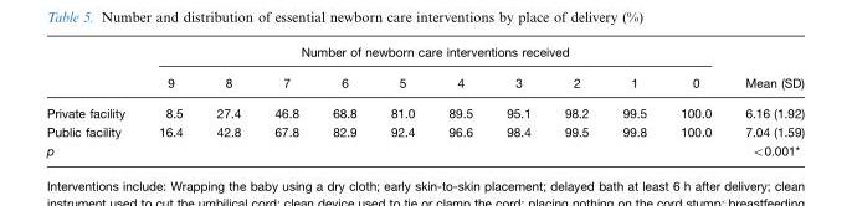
<table><thead><tr><td rowspan="2"></td><td colspan="10">Number of newborn care interventions received</td><td rowspan="2">Mean (SD)</td></tr><tr><td>9</td><td>8</td><td>7</td><td>6</td><td>5</td><td>4</td><td>3</td><td>2</td><td>1</td><td>0</td></tr></thead><tbody><tr><td>Private facility</td><td>8.5</td><td>27.4</td><td>46.8</td><td>68.8</td><td>81.0</td><td>89.5</td><td>95.1</td><td>98.2</td><td>99.5</td><td>100.0</td><td>6.16 (1.92)</td></tr><tr><td>Public facility</td><td>16.4</td><td>42.8</td><td>67.8</td><td>82.9</td><td>92.4</td><td>96.6</td><td>98.4</td><td>99.5</td><td>99.8</td><td>100.0</td><td>7.04 (1.59)</td></tr><tr><td>p</td><td></td><td></td><td></td><td></td><td></td><td></td><td></td><td></td><td></td><td></td><td>&lt;0.001*</td></tr></tbody></table>